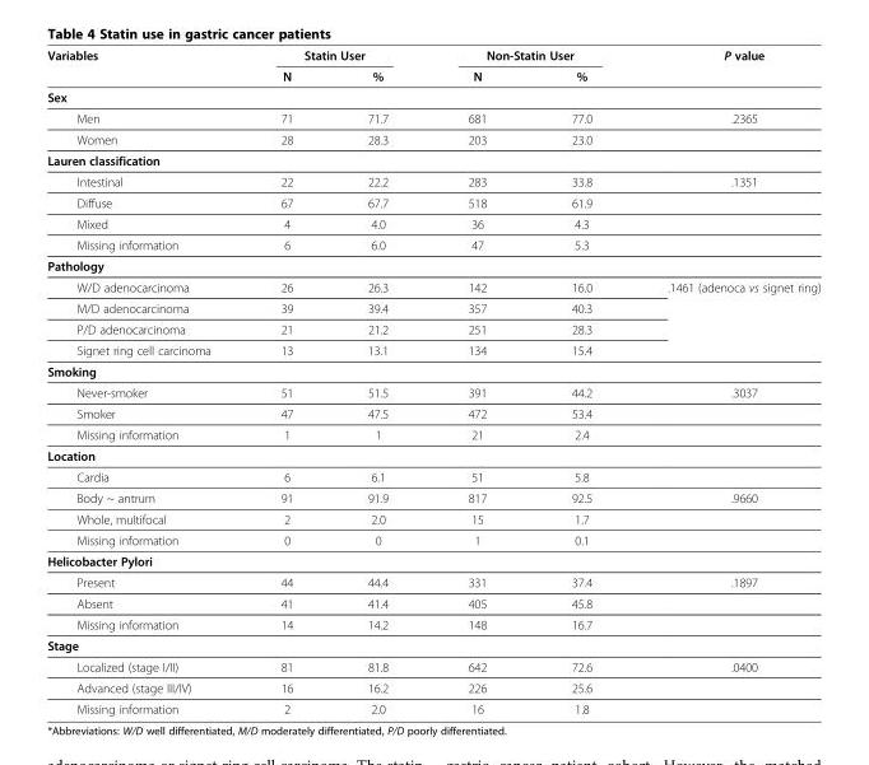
<table><thead><tr><td rowspan="2">Variables</td><td colspan="2">Statin User</td><td colspan="2">Non-Statin User</td><td rowspan="2">P value</td></tr><tr><td>N</td><td>%</td><td>N</td><td>%</td></tr></thead><tbody><tr><td colspan="6">Sex</td></tr><tr><td>Men</td><td>71</td><td>71.7</td><td>681</td><td>77.0</td><td>.2365</td></tr><tr><td>Women</td><td>28</td><td>28.3</td><td>203</td><td>23.0</td><td></td></tr><tr><td colspan="6">Lauren classification</td></tr><tr><td>Intestinal</td><td>22</td><td>22.2</td><td>283</td><td>33.8</td><td>.1351</td></tr><tr><td>Diffuse</td><td>67</td><td>67.7</td><td>518</td><td>61.9</td><td></td></tr><tr><td>Mixed</td><td>4</td><td>4.0</td><td>36</td><td>4.3</td><td></td></tr><tr><td>Missing information</td><td>6</td><td>6.0</td><td>47</td><td>5.3</td><td></td></tr><tr><td colspan="6">Pathology</td></tr><tr><td>W/D adenocarcinoma</td><td>26</td><td>26.3</td><td>142</td><td>16.0</td><td rowspan="4">.1461 (adenoca vs signet ring)</td></tr><tr><td>M/D adenocarcinoma</td><td>39</td><td>39.4</td><td>357</td><td>40.3</td></tr><tr><td>P/D adenocarcinoma</td><td>21</td><td>21.2</td><td>251</td><td>28.3</td></tr><tr><td>Signet ring cell carcinoma</td><td>13</td><td>13.1</td><td>134</td><td>15.4</td></tr><tr><td colspan="6">Smoking</td></tr><tr><td>Never-smoker</td><td>51</td><td>51.5</td><td>391</td><td>44.2</td><td>.3037</td></tr><tr><td>Smoker</td><td>47</td><td>47.5</td><td>472</td><td>53.4</td><td></td></tr><tr><td>Missing information</td><td>1</td><td>1</td><td>21</td><td>2.4</td><td></td></tr><tr><td colspan="6">Location</td></tr><tr><td>Cardia</td><td>6</td><td>6.1</td><td>51</td><td>5.8</td><td></td></tr><tr><td>Body ~ antrum</td><td>91</td><td>91.9</td><td>817</td><td>92.5</td><td>.9660</td></tr><tr><td>Whole, multifocal</td><td>2</td><td>2.0</td><td>15</td><td>1.7</td><td></td></tr><tr><td>Missing information</td><td>0</td><td>0</td><td>1</td><td>0.1</td><td></td></tr><tr><td colspan="6">Helicobacter Pylori</td></tr><tr><td>Present</td><td>44</td><td>44.4</td><td>331</td><td>37.4</td><td>.1897</td></tr><tr><td>Absent</td><td>41</td><td>41.4</td><td>405</td><td>45.8</td><td></td></tr><tr><td>Missing information</td><td>14</td><td>14.2</td><td>148</td><td>16.7</td><td></td></tr><tr><td colspan="6">Stage</td></tr><tr><td>Localized (stage I/II)</td><td>81</td><td>81.8</td><td>642</td><td>72.6</td><td>.0400</td></tr><tr><td>Advanced (stage III/IV)</td><td>16</td><td>16.2</td><td>226</td><td>25.6</td><td></td></tr><tr><td>Missing information</td><td>2</td><td>2.0</td><td>16</td><td>1.8</td><td></td></tr></tbody></table>